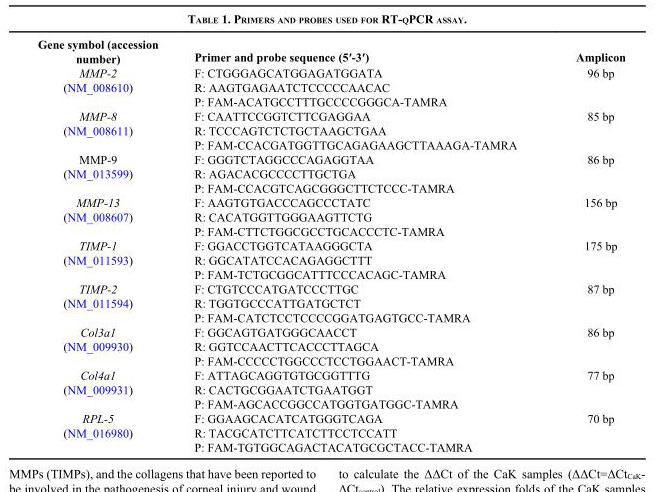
<table><thead><tr><td>Gene symbol (accession number)</td><td>Primer and probe sequence (5′-3′)</td><td>Amplicon</td></tr></thead><tbody><tr><td>MMP-2</td><td>F: CTGGGAGCATGGAGATGGATA</td><td>96 bp</td></tr><tr><td rowspan="2">(NM_008610)</td><td>R: AAGTGAGAATCTCCCCCAACAC</td><td></td></tr><tr><td>P: FAM-ACATGCCTTTGCCCCGGGCA-TAMRA</td><td></td></tr><tr><td>MMP-8</td><td>F: CAATTCCGGTCTTCGAGGAA</td><td>85 bp</td></tr><tr><td rowspan="2">(NM_008611)</td><td>R: TCCCAGTCTCTGCTAAGCTGAA</td><td></td></tr><tr><td>P: FAM-CCACGATGGTTGCAGAGAAGCTTAAAGA-TAMRA</td><td></td></tr><tr><td>MMP-9</td><td>F: GGGTCTAGGCCCAGAGGTAA</td><td>86 bp</td></tr><tr><td rowspan="2">(NM_013599)</td><td>R: AGACACGCCCCTTGCTGA</td><td></td></tr><tr><td>P: FAM-CCACGTCAGCGGGCTTCTCCC-TAMRA</td><td></td></tr><tr><td>MMP-13</td><td>F: AAGTGTGACCCAGCCCTATC</td><td>156 bp</td></tr><tr><td rowspan="2">(NM_008607)</td><td>R: CACATGGTTGGGAAGTTCTG</td><td></td></tr><tr><td>P: FAM-CTTCTGGCGCCTGCACCCTC-TAMRA</td><td></td></tr><tr><td>TIMP-1</td><td>F: GGACCTGGTCATAAGGGCTA</td><td>175 bp</td></tr><tr><td rowspan="2">(NM_011593)</td><td>R: GGCATATCCACAGAGGCTTT</td><td></td></tr><tr><td>P: FAM-TCTGCGGCATTTCCCACAGC-TAMRA</td><td></td></tr><tr><td>TIMP-2</td><td>F: CTGTCCCATGATCCCTTGC</td><td>87 bp</td></tr><tr><td rowspan="2">(NM_011594)</td><td>R: TGGTGCCCATTGATGCTCT</td><td></td></tr><tr><td>P: FAM-CATCTCCTCCCCGGATGAGTGCC-TAMRA</td><td></td></tr><tr><td>Col3a1</td><td>F: GGCAGTGATGGGCAACCT</td><td>86 bp</td></tr><tr><td rowspan="2">(NM_009930)</td><td>R: GGTCCAACTTCACCCTTAGCA</td><td></td></tr><tr><td>P: FAM-CCCCCTGGCCCTCCTGGAACT-TAMRA</td><td></td></tr><tr><td>Col4a1</td><td>F: ATTAGCAGGTGTGCGGTTTG</td><td>77 bp</td></tr><tr><td rowspan="2">(NM_009931)</td><td>R: CACTGCGGAATCTGAATGGT</td><td></td></tr><tr><td>P: FAM-AGCACCGGCCATGGTGATGGC-TAMRA</td><td></td></tr><tr><td>RPL-5</td><td>F: GGAAGCACATCATGGGTCAGA</td><td>70 bp</td></tr><tr><td rowspan="2">(NM_016980)</td><td>R: TACGCATCTTCATCTTCCTCCATT</td><td></td></tr><tr><td>P: FAM-TGTGGCAGACTACATGCGCTACC-TAMRA</td><td></td></tr></tbody></table>